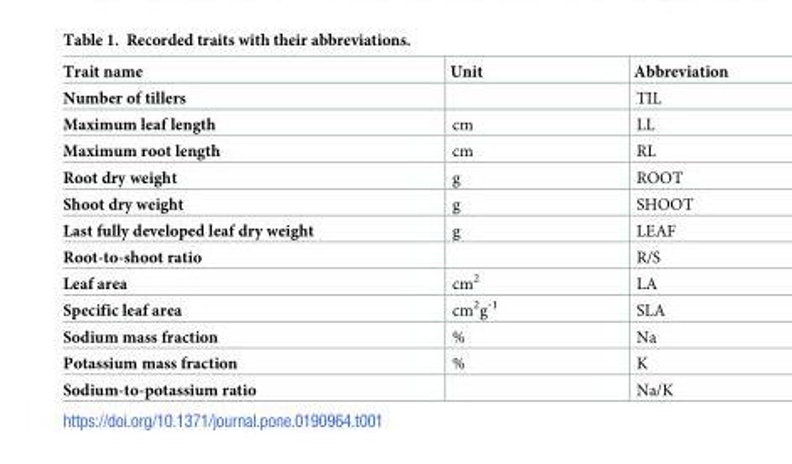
<table><thead><tr><td>Trait name</td><td>Unit</td><td>Abbreviation</td></tr></thead><tbody><tr><td>Number of tillers</td><td></td><td>TIL</td></tr><tr><td>Maximum leaf length</td><td>cm</td><td>LL</td></tr><tr><td>Maximum root length</td><td>cm</td><td>RL</td></tr><tr><td>Root dry weight</td><td>g</td><td>ROOT</td></tr><tr><td>Shoot dry weight</td><td>g</td><td>SHOOT</td></tr><tr><td>Last fully developed leaf dry weight</td><td>g</td><td>LEAF</td></tr><tr><td>Root-to-shoot ratio</td><td></td><td>R/S</td></tr><tr><td>Leaf area</td><td>cm<sup>2</sup></td><td>LA</td></tr><tr><td>Specific leaf area</td><td>cm<sup>2</sup>g<sup>-1</sup></td><td>SLA</td></tr><tr><td>Sodium mass fraction</td><td>%</td><td>Na</td></tr><tr><td>Potassium mass fraction</td><td>%</td><td>K</td></tr><tr><td>Sodium-to-potassium ratio</td><td></td><td>Na/K</td></tr></tbody></table>